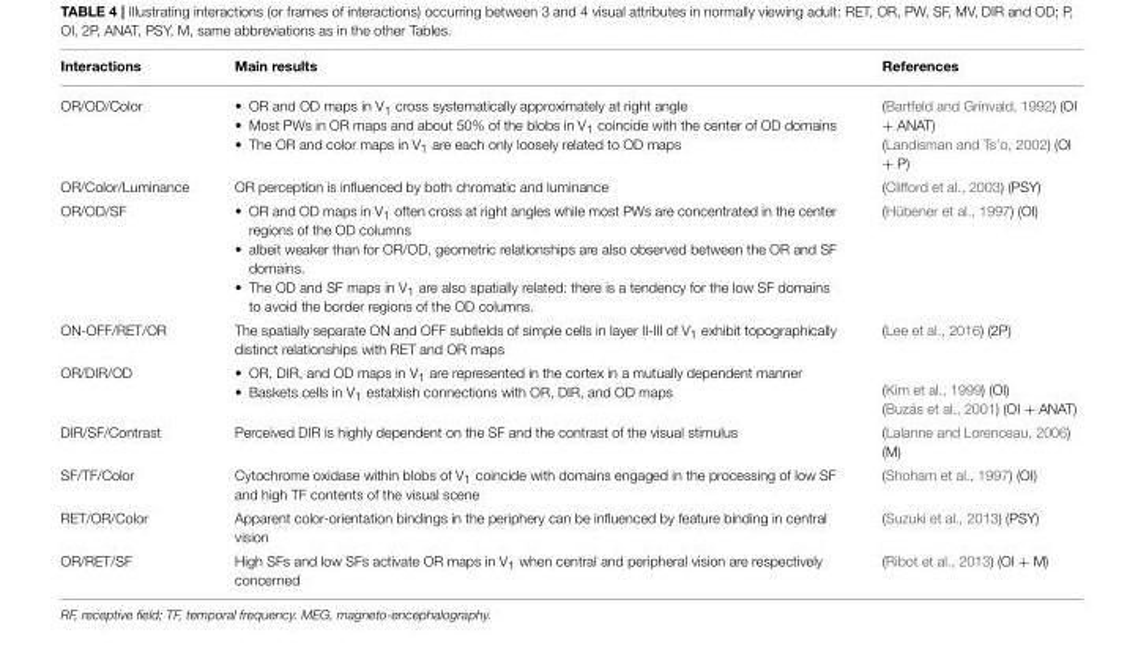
<table><thead><tr><td>Interactions</td><td>Main results</td><td>References</td></tr></thead><tbody><tr><td>OR/OD/Color</td><td>• OR and OD maps in V1 cross systematically approximately at right angle • Most PWs in OR maps and about 50% of the blobs in V1 coincide with the center of OD domains • The OR and color maps in V1 are each only loosely related to OD maps</td><td>(Bartfeld and Grinvald, 1992) (OI + ANAT) (Landisman and Ts’o, 2002) (OI + P)</td></tr><tr><td>OR/Color/Luminance</td><td>OR perception is influenced by both chromatic and luminance</td><td>(Clifford et al., 2003) (PSY)</td></tr><tr><td>OR/OD/SF</td><td>• OR and OD maps in V1 often cross at right angles while most PWs are concentrated in the center regions of the OD columns • albeit weaker than for OR/OD, geometric relationships are also observed between the OR and SF domains. • The OD and SF maps in V1 are also spatially related: there is a tendency for the low SF domains to avoid the border regions of the OD columns.</td><td>(Hübener et al., 1997) (OI)</td></tr><tr><td>ON-OFF/RET/OR</td><td>The spatially separate ON and OFF subfields of simple cells in layer II-III of V<sub>1</sub> exhibit topographically distinct relationships with RET and OR maps</td><td>(Lee et al., 2016) (2P)</td></tr><tr><td>OR/DIR/OD</td><td>• OR, DIR, and OD maps in V1 are represented in the cortex in a mutually dependent manner • Baskets cells in V1 establish connections with OR, DIR, and OD maps</td><td>(Kim et al., 1999) (OI) (Buzás et al., 2001) (OI + ANAT)</td></tr><tr><td>DIR/SF/Contrast</td><td>Perceived DIR is highly dependent on the SF and the contrast of the visual stimulus</td><td>(Lalanne and Lorenceau, 2006) (M)</td></tr><tr><td>SF/TF/Color</td><td>Cytochrome oxidase within blobs of V<sub>1</sub> coincide with domains engaged in the processing of low SF and high TF contents of the visual scene</td><td>(Shoham et al., 1997) (OI)</td></tr><tr><td>RET/OR/Color</td><td>Apparent color-orientation bindings in the periphery can be influenced by feature binding in central vision</td><td>(Suzuki et al., 2013) (PSY)</td></tr><tr><td>OR/RET/SF</td><td>High SFs and low SFs activate OR maps in V<sub>1</sub> when central and peripheral vision are respectively concerned</td><td>(Ribot et al., 2013) (OI + M)</td></tr></tbody></table>